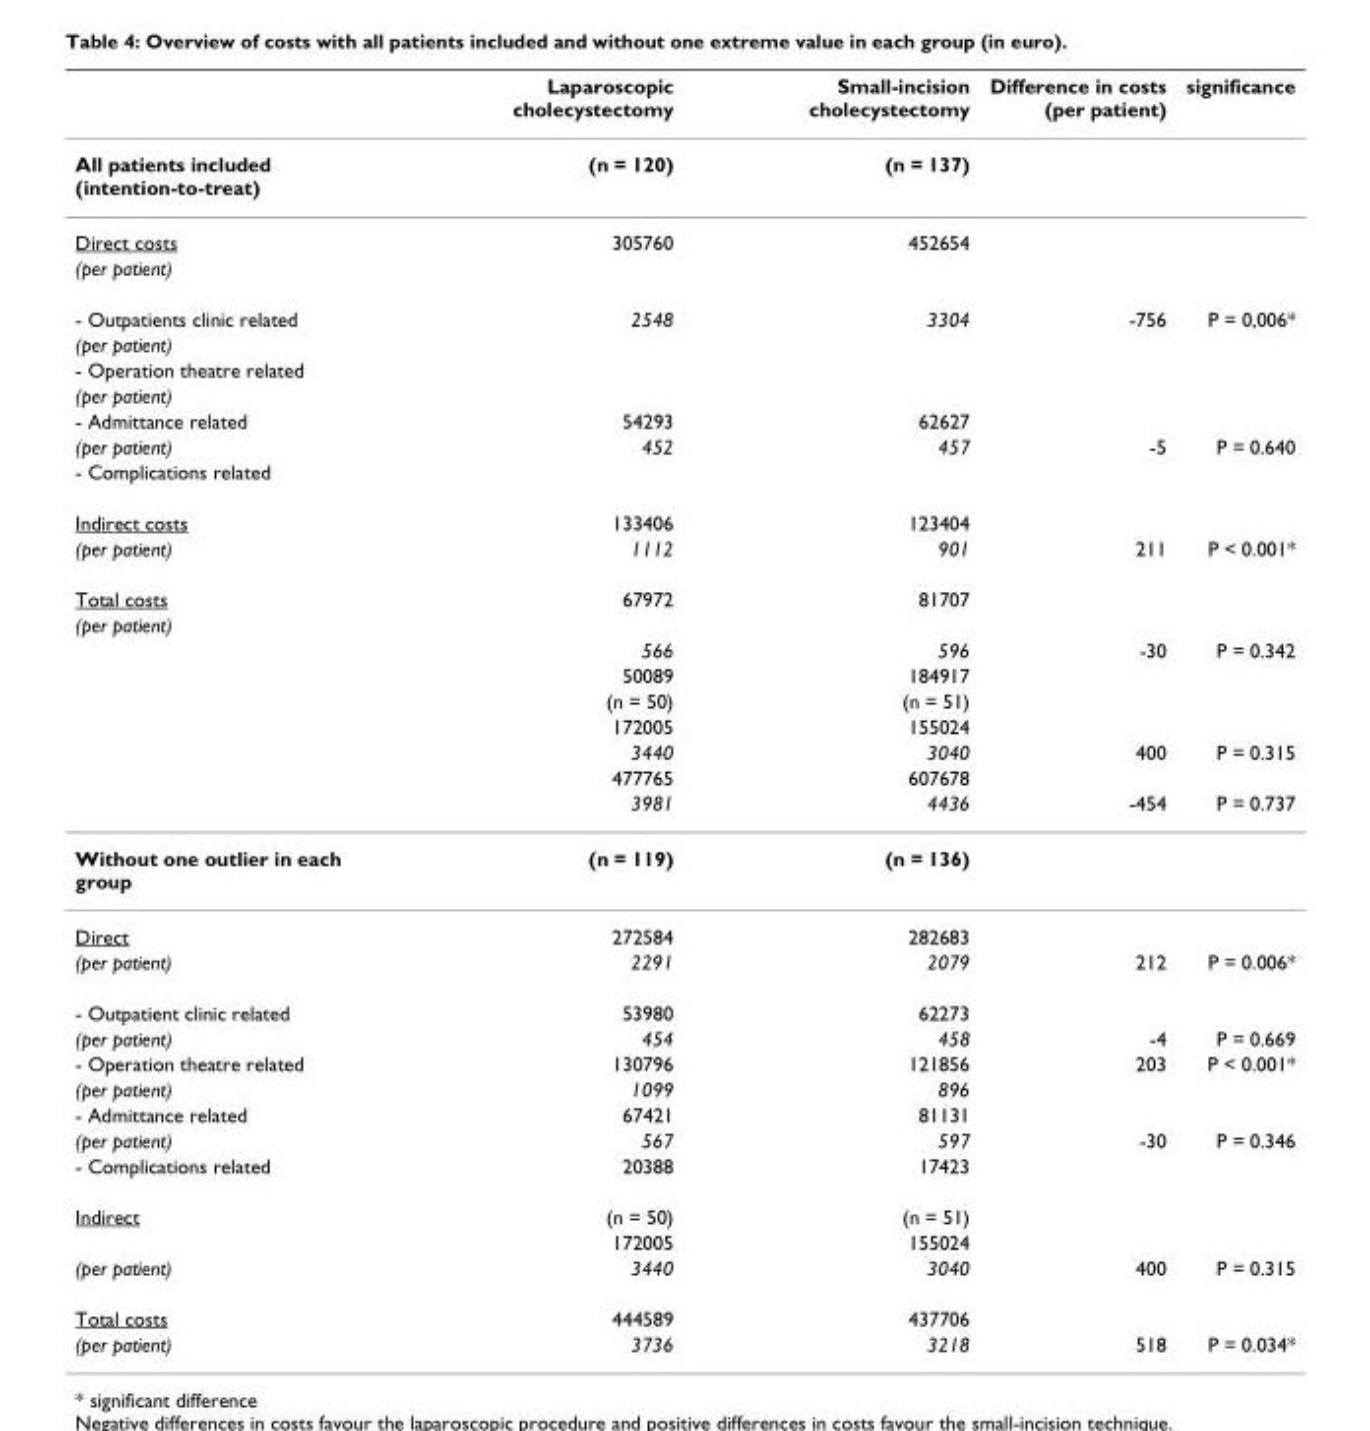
<table><thead><tr><td></td><td>Laparoscopic cholecystectomy</td><td>Small-incision cholecystectomy</td><td>Difference in costs (per patient)</td><td>significance</td></tr></thead><tbody><tr><td>All patients included (intention-to-treat)</td><td>(n = 120)</td><td>(n = 137)</td><td></td><td></td></tr><tr><td>Direct costs</td><td>305760</td><td>452654</td><td></td><td></td></tr><tr><td colspan="5">(per patient)</td></tr><tr><td>- Outpatients clinic related</td><td>2548</td><td>3304</td><td>-756</td><td>P = 0,006*</td></tr><tr><td colspan="5">(per patient)</td></tr><tr><td colspan="5">- Operation theatre related</td></tr><tr><td colspan="5">(per patient)</td></tr><tr><td>- Admittance related</td><td>54293</td><td>62627</td><td></td><td></td></tr><tr><td>(per patient)</td><td>452</td><td>457</td><td>-5</td><td>P = 0.640</td></tr><tr><td colspan="5">- Complications related</td></tr><tr><td>Indirect costs</td><td>133406</td><td>123404</td><td></td><td></td></tr><tr><td>(per patient)</td><td>1112</td><td>901</td><td>211</td><td>P &lt; 0.001*</td></tr><tr><td>Total costs</td><td>67972</td><td>81707</td><td></td><td></td></tr><tr><td colspan="5">(per patient)</td></tr><tr><td></td><td>566</td><td>596</td><td>-30</td><td>P = 0.342</td></tr><tr><td></td><td>50089</td><td>184917</td><td></td><td></td></tr><tr><td></td><td>(n = 50)</td><td>(n = 51)</td><td></td><td></td></tr><tr><td></td><td>172005</td><td>155024</td><td></td><td></td></tr><tr><td></td><td>3440</td><td>3040</td><td>400</td><td>P = 0.315</td></tr><tr><td></td><td>477765</td><td>607678</td><td></td><td></td></tr><tr><td></td><td>3981</td><td>4436</td><td>-454</td><td>P = 0.737</td></tr><tr><td>Without one outlier in each group</td><td>(n = 119)</td><td>(n = 136)</td><td></td><td></td></tr><tr><td>Direct</td><td>272584</td><td>282683</td><td></td><td></td></tr><tr><td>(per patient)</td><td>2291</td><td>2079</td><td>212</td><td>P = 0.006*</td></tr><tr><td>- Outpatient clinic related</td><td>53980</td><td>62273</td><td></td><td></td></tr><tr><td>(per patient)</td><td>454</td><td>458</td><td>-4</td><td>P = 0.669</td></tr><tr><td>- Operation theatre related</td><td>130796</td><td>121856</td><td>203</td><td>P &lt; 0.001*</td></tr><tr><td>(per patient)</td><td>1099</td><td>896</td><td></td><td></td></tr><tr><td>- Admittance related</td><td>67421</td><td>81131</td><td></td><td></td></tr><tr><td>(per patient)</td><td>567</td><td>597</td><td>-30</td><td>P = 0.346</td></tr><tr><td>- Complications related</td><td>20388</td><td>17423</td><td></td><td></td></tr><tr><td rowspan="2">Indirect</td><td>(n = 50)</td><td>(n = 51)</td><td></td><td></td></tr><tr><td>172005</td><td>155024</td><td></td><td></td></tr><tr><td>(per patient)</td><td>3440</td><td>3040</td><td>400</td><td>P = 0.315</td></tr><tr><td>Total costs</td><td>444589</td><td>437706</td><td></td><td></td></tr><tr><td>(per patient)</td><td>3736</td><td>3218</td><td>518</td><td>P = 0.034*</td></tr></tbody></table>